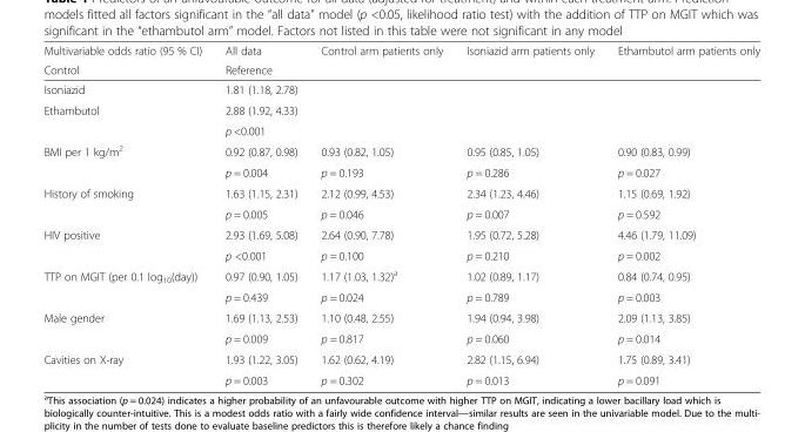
<table><thead><tr><td rowspan="2">Multivariable odds ratio (95 % CI) Control</td><td rowspan="2">All data Reference</td><td rowspan="2">Control arm patients only</td><td rowspan="2">Isoniazid arm patients only</td><td rowspan="2">Ethambutol arm patients only</td></tr><tr></tr></thead><tbody><tr><td>Isoniazid</td><td>1.81 (1.18, 2.78)</td><td></td><td></td><td></td></tr><tr><td rowspan="2">Ethambutol</td><td>2.88 (1.92, 4.33)</td><td></td><td></td><td></td></tr><tr><td>p &lt;0.001</td><td></td><td></td><td></td></tr><tr><td rowspan="2">BMI per 1 kg/m<sup>2</sup></td><td>0.92 (0.87, 0.98)</td><td>0.93 (0.82, 1.05)</td><td>0.95 (0.85, 1.05)</td><td>0.90 (0.83, 0.99)</td></tr><tr><td>p = 0.004</td><td>p = 0.193</td><td>p = 0.286</td><td>p = 0.027</td></tr><tr><td rowspan="2">History of smoking</td><td>1.63 (1.15, 2.31)</td><td>2.12 (0.99, 4.53)</td><td>2.34 (1.23, 4.46)</td><td>1.15 (0.69, 1.92)</td></tr><tr><td>p = 0.005</td><td>p = 0.046</td><td>p = 0.007</td><td>p = 0.592</td></tr><tr><td rowspan="2">HIV positive</td><td>2.93 (1.69, 5.08)</td><td>2.64 (0.90, 7.78)</td><td>1.95 (0.72, 5.28)</td><td>4.46 (1.79, 11.09)</td></tr><tr><td>p &lt;0.001</td><td>p = 0.100</td><td>p = 0.210</td><td>p = 0.002</td></tr><tr><td rowspan="2">TTP on MGIT (per 0.1 log<sub>10</sub>(day))</td><td>0.97 (0.90, 1.05)</td><td>1.17 (1.03, 1.32)<sup>a</sup></td><td>1.02 (0.89, 1.17)</td><td>0.84 (0.74, 0.95)</td></tr><tr><td>p = 0.439</td><td>p = 0.024</td><td>p = 0.789</td><td>p = 0.003</td></tr><tr><td rowspan="2">Male gender</td><td>1.69 (1.13, 2.53)</td><td>1.10 (0.48, 2.55)</td><td>1.94 (0.94, 3.98)</td><td>2.09 (1.13, 3.85)</td></tr><tr><td>p = 0.009</td><td>p = 0.817</td><td>p = 0.060</td><td>p = 0.014</td></tr><tr><td rowspan="2">Cavities on X-ray</td><td>1.93 (1.22, 3.05)</td><td>1.62 (0.62, 4.19)</td><td>2.82 (1.15, 6.94)</td><td>1.75 (0.89, 3.41)</td></tr><tr><td>p = 0.003</td><td>p = 0.302</td><td>p = 0.013</td><td>p = 0.091</td></tr></tbody></table>